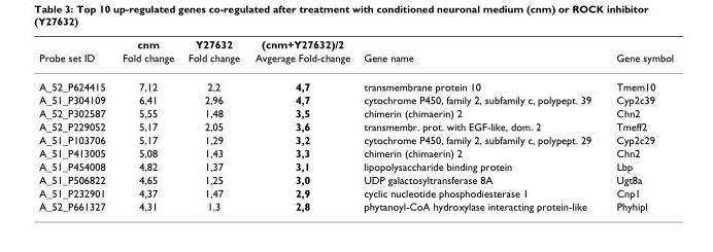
<table><thead><tr><td rowspan="2">Probe set ID</td><td rowspan="2">cnm Fold change</td><td rowspan="2">Y27632 Fold change</td><td rowspan="2">(cnm+Y27632)/2 Avgerage Fold-change</td><td rowspan="2">Gene name</td><td rowspan="2">Gene symbol</td></tr><tr></tr></thead><tbody><tr><td>A_52_P624415</td><td>7,12</td><td>2,2</td><td>4,7</td><td>transmembrane protein 10</td><td>Tmem10</td></tr><tr><td>A_51_P304109</td><td>6,41</td><td>2,96</td><td>4,7</td><td>cytochrome P450, family 2, subfamily c, polypept. 39</td><td>Cyp2c39</td></tr><tr><td>A_52_P302587</td><td>5,55</td><td>1,48</td><td>3,5</td><td>chimerin (chimaerin) 2</td><td>Chn2</td></tr><tr><td>A_52_P229052</td><td>5,17</td><td>2,05</td><td>3,6</td><td>transmembr. prot. with EGF-like, dom. 2</td><td>Tmeff2</td></tr><tr><td>A_51_P103706</td><td>5,17</td><td>1,29</td><td>3,2</td><td>cytochrome P450, family 2, subfamily c, polypept. 29</td><td>Cyp2c29</td></tr><tr><td>A_51_P413005</td><td>5,08</td><td>1,43</td><td>3,3</td><td>chimerin (chimaerin) 2</td><td>Chn2</td></tr><tr><td>A_51_P454008</td><td>4,82</td><td>1,37</td><td>3,1</td><td>lipopolysaccharide binding protein</td><td>Lbp</td></tr><tr><td>A_51_P506822</td><td>4,65</td><td>1,25</td><td>3,0</td><td>UDP galactosyltransferase 8A</td><td>Ugt8a</td></tr><tr><td>A_51_P232901</td><td>4,37</td><td>1,47</td><td>2,9</td><td>cyclic nucleotide phosphodiesterase 1</td><td>Cnp1</td></tr><tr><td>A_52_P661327</td><td>4,31</td><td>1,3</td><td>2,8</td><td>phytanoyl-CoA hydroxylase interacting protein-like</td><td>Phyhipl</td></tr></tbody></table>